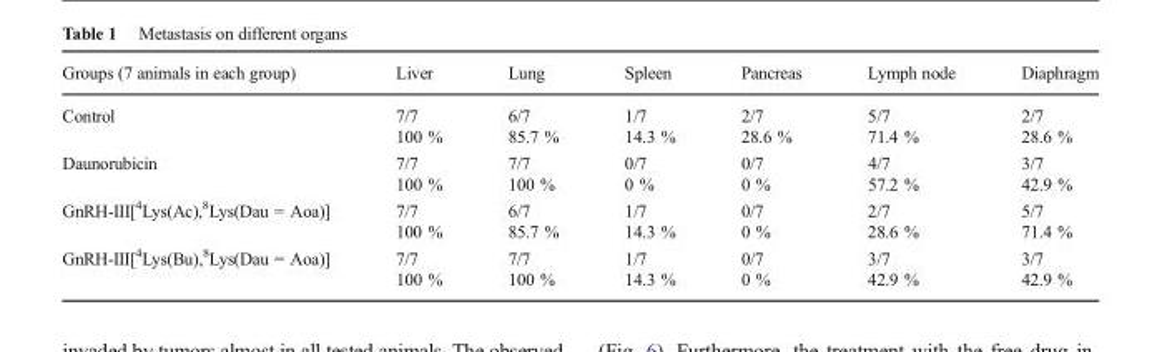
<table><thead><tr><td>Groups (7 animals in each group)</td><td>Liver</td><td>Lung</td><td>Spleen</td><td>Pancreas</td><td>Lymph node</td><td>Diaphragm</td></tr></thead><tbody><tr><td>Control</td><td>7/7 100 %</td><td>6/7 85.7 %</td><td>1/7 14.3 %</td><td>2/7 28.6 %</td><td>5/7 71.4 %</td><td>2/7 28.6 %</td></tr><tr><td>Daunorubicin</td><td>7/7 100 %</td><td>7/7 100 %</td><td>0/7 0 %</td><td>0/7 0 %</td><td>4/7 57.2 %</td><td>3/7 42.9 %</td></tr><tr><td>GnRH-III[<sup>4</sup>Lys(Ac),<sup>8</sup>Lys(Dau = Aoa)]</td><td>7/7 100 %</td><td>6/7 85.7 %</td><td>1/7 14.3 %</td><td>0/7 0 %</td><td>2/7 28.6 %</td><td>5/7 71.4 %</td></tr><tr><td>GnRH-III[<sup>4</sup>Lys(Bu),<sup>8</sup>Lys(Dau = Aoa)]</td><td>7/7 100 %</td><td>7/7 100 %</td><td>1/7 14.3 %</td><td>0/7 0 %</td><td>3/7 42.9 %</td><td>3/7 42.9 %</td></tr></tbody></table>